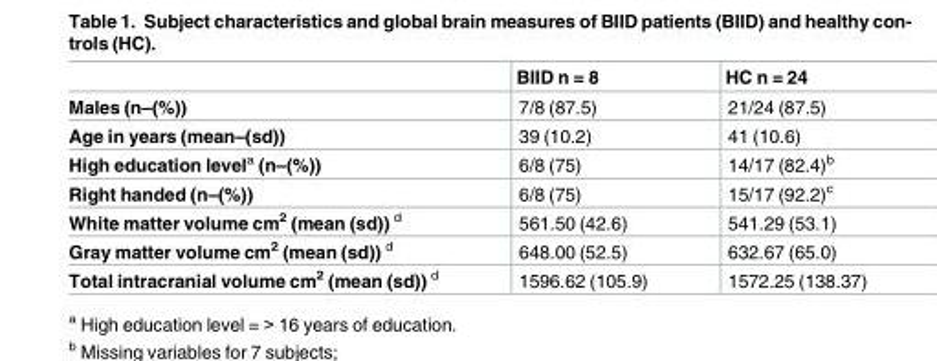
<table><thead><tr><td></td><td>BIID n = 8</td><td>HC n = 24</td></tr></thead><tbody><tr><td>Males (n–(%))</td><td>7/8 (87.5)</td><td>21/24 (87.5)</td></tr><tr><td>Age in years (mean–(sd))</td><td>39 (10.2)</td><td>41 (10.6)</td></tr><tr><td>High education level<sup>a</sup> (n–(%))</td><td>6/8 (75)</td><td>14/17 (82.4)<sup>b</sup></td></tr><tr><td>Right handed (n–(%))</td><td>6/8 (75)</td><td>15/17 (92.2)<sup>c</sup></td></tr><tr><td>White matter volume cm<sup>2</sup> (mean (sd)) <sup>d</sup></td><td>561.50 (42.6)</td><td>541.29 (53.1)</td></tr><tr><td>Gray matter volume cm<sup>2</sup> (mean (sd)) <sup>d</sup></td><td>648.00 (52.5)</td><td>632.67 (65.0)</td></tr><tr><td>Total intracranial volume cm<sup>2</sup> (mean (sd)) <sup>d</sup></td><td>1596.62 (105.9)</td><td>1572.25 (138.37)</td></tr></tbody></table>